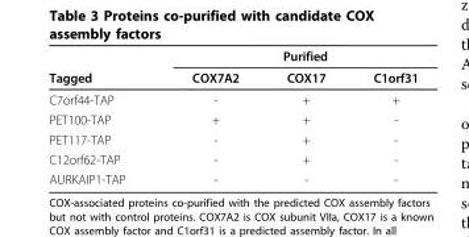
<table><thead><tr><td rowspan="2">Tagged</td><td colspan="3">Purified</td></tr><tr><td>COX7A2</td><td>COX17</td><td>C1orf31</td></tr></thead><tbody><tr><td>C7orf44-TAP</td><td>-</td><td>+</td><td>+</td></tr><tr><td>PET100-TAP</td><td>+</td><td>+</td><td>-</td></tr><tr><td>PET117-TAP</td><td>-</td><td>+</td><td>-</td></tr><tr><td>C12orf62-TAP</td><td>-</td><td>+</td><td>-</td></tr><tr><td>AURKAIP1-TAP</td><td>-</td><td>-</td><td>-</td></tr></tbody></table>